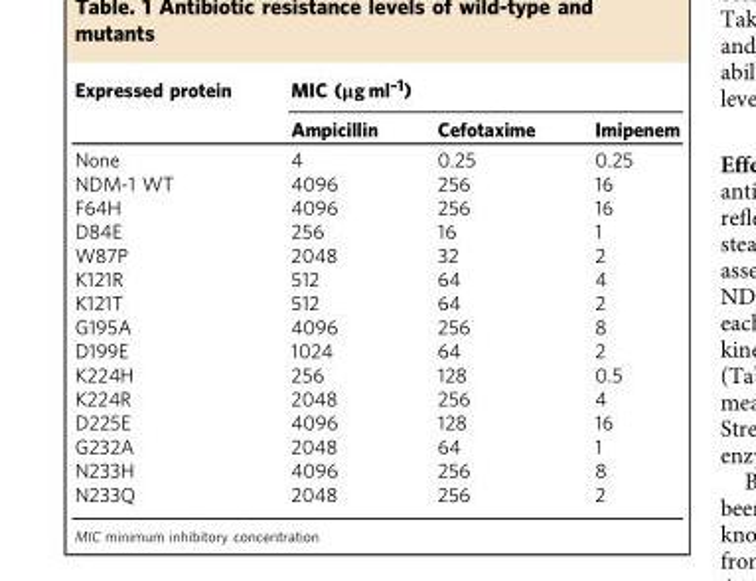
<table><thead><tr><td rowspan="2">Expressed protein</td><td colspan="3">MIC (μg ml<sup>–1</sup>)</td></tr><tr><td>Ampicillin</td><td>Cefotaxime</td><td>Imipenem</td></tr></thead><tbody><tr><td>None</td><td>4</td><td>0.25</td><td>0.25</td></tr><tr><td>NDM-1 WT</td><td>4096</td><td>256</td><td>16</td></tr><tr><td>F64H</td><td>4096</td><td>256</td><td>16</td></tr><tr><td>D84E</td><td>256</td><td>16</td><td>1</td></tr><tr><td>W87P</td><td>2048</td><td>32</td><td>2</td></tr><tr><td>K121R</td><td>512</td><td>64</td><td>4</td></tr><tr><td>K121T</td><td>512</td><td>64</td><td>2</td></tr><tr><td>G195A</td><td>4096</td><td>256</td><td>8</td></tr><tr><td>D199E</td><td>1024</td><td>64</td><td>2</td></tr><tr><td>K224H</td><td>256</td><td>128</td><td>0.5</td></tr><tr><td>K224R</td><td>2048</td><td>256</td><td>4</td></tr><tr><td>D225E</td><td>4096</td><td>128</td><td>16</td></tr><tr><td>G232A</td><td>2048</td><td>64</td><td>1</td></tr><tr><td>N233H</td><td>4096</td><td>256</td><td>8</td></tr><tr><td>N233Q</td><td>2048</td><td>256</td><td>2</td></tr></tbody></table>